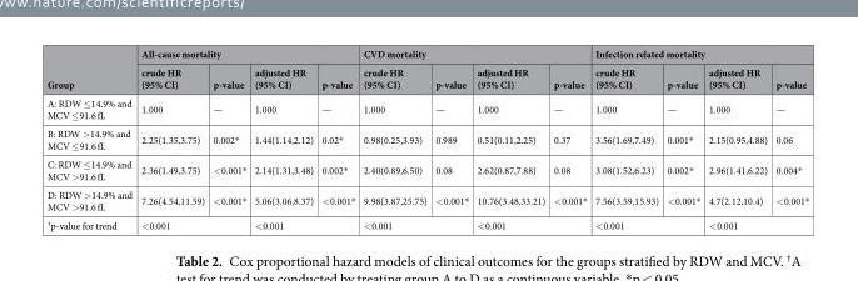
<table><thead><tr><td rowspan="2">Group</td><td colspan="4">All-cause mortality</td><td colspan="4">CVD mortality</td><td colspan="4">Infection related mortality</td></tr><tr><td>crude HR (95% CI)</td><td>p-value</td><td>adjusted HR (95% CI)</td><td>p-value</td><td>crude HR (95% CI)</td><td>p-value</td><td>adjusted HR (95% CI)</td><td>p-value</td><td>crude HR (95% CI)</td><td>p-value</td><td>adjusted HR (95% CI)</td><td>p-value</td></tr></thead><tbody><tr><td>A: RDW ≤14.9% and MCV ≤91.6 fL</td><td>1.000</td><td>—</td><td>1.000</td><td>—</td><td>1.000</td><td>—</td><td>1.000</td><td>—</td><td>1.000</td><td>—</td><td>1.000</td><td>—</td></tr><tr><td>B: RDW &gt;14.9% and MCV ≤91.6 fL</td><td>2.25(1.35,3.75)</td><td>0.002*</td><td>1.44(1.14,2.12)</td><td>0.02*</td><td>0.98(0.25,3.93)</td><td>0.989</td><td>0.51(0.11,2.25)</td><td>0.37</td><td>3.56(1.69,7.49)</td><td>0.001*</td><td>2.15(0.95,4.88)</td><td>0.06</td></tr><tr><td>C: RDW ≤14.9% and MCV &gt;91.6 fL</td><td>2.36(1.49,3.75)</td><td>&lt;0.001*</td><td>2.14(1.31,3.48)</td><td>0.002*</td><td>2.40(0.89,6.50)</td><td>0.08</td><td>2.62(0.87,7.88)</td><td>0.08</td><td>3.08(1.52,6.23)</td><td>0.002*</td><td>2.96(1.41,6.22)</td><td>0.004*</td></tr><tr><td>D: RDW &gt;14.9% and MCV &gt;91.6 fL</td><td>7.26(4.54,11.59)</td><td>&lt;0.001*</td><td>5.06(3.06,8.37)</td><td>&lt;0.001*</td><td>9.98(3.87,25.75)</td><td>&lt;0.001*</td><td>10.76(3.48,33.21)</td><td>&lt;0.001*</td><td>7.56(3.59,15.93)</td><td>&lt;0.001*</td><td>4.7(2.12,10.4)</td><td>&lt;0.001*</td></tr><tr><td><sup>†</sup>p-value for trend</td><td colspan="2">&lt;0.001</td><td colspan="2">&lt;0.001</td><td colspan="2">&lt;0.001</td><td colspan="2">&lt;0.001</td><td colspan="2">&lt;0.001</td><td colspan="2">&lt;0.001</td></tr></tbody></table>